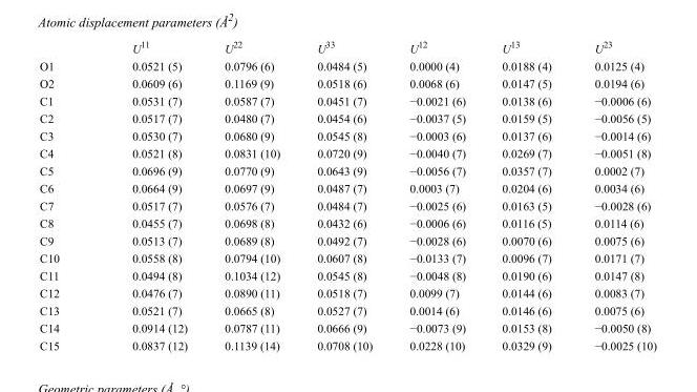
<table><thead><tr><td></td><td>U<sup>11</sup></td><td>U<sup>22</sup></td><td>U<sup>33</sup></td><td>U<sup>12</sup></td><td>U<sup>13</sup></td><td>U<sup>23</sup></td></tr></thead><tbody><tr><td>O1</td><td>0.0521 (5)</td><td>0.0796 (6)</td><td>0.0484 (5)</td><td>0.0000 (4)</td><td>0.0188 (4)</td><td>0.0125 (4)</td></tr><tr><td>O2</td><td>0.0609 (6)</td><td>0.1169 (9)</td><td>0.0518 (6)</td><td>0.0068 (6)</td><td>0.0147 (5)</td><td>0.0194 (6)</td></tr><tr><td>C1</td><td>0.0531 (7)</td><td>0.0587 (7)</td><td>0.0451 (7)</td><td>−0.0021 (6)</td><td>0.0138 (6)</td><td>−0.0006 (6)</td></tr><tr><td>C2</td><td>0.0517 (7)</td><td>0.0480 (7)</td><td>0.0454 (6)</td><td>−0.0037 (5)</td><td>0.0159 (5)</td><td>−0.0056 (5)</td></tr><tr><td>C3</td><td>0.0530 (7)</td><td>0.0680 (9)</td><td>0.0545 (8)</td><td>−0.0003 (6)</td><td>0.0137 (6)</td><td>−0.0014 (6)</td></tr><tr><td>C4</td><td>0.0521 (8)</td><td>0.0831 (10)</td><td>0.0720 (9)</td><td>−0.0040 (7)</td><td>0.0269 (7)</td><td>−0.0051 (8)</td></tr><tr><td>C5</td><td>0.0696 (9)</td><td>0.0770 (9)</td><td>0.0643 (9)</td><td>−0.0056 (7)</td><td>0.0357 (7)</td><td>0.0002 (7)</td></tr><tr><td>C6</td><td>0.0664 (9)</td><td>0.0697 (9)</td><td>0.0487 (7)</td><td>0.0003 (7)</td><td>0.0204 (6)</td><td>0.0034 (6)</td></tr><tr><td>C7</td><td>0.0517 (7)</td><td>0.0576 (7)</td><td>0.0484 (7)</td><td>−0.0025 (6)</td><td>0.0163 (5)</td><td>−0.0028 (6)</td></tr><tr><td>C8</td><td>0.0455 (7)</td><td>0.0698 (8)</td><td>0.0432 (6)</td><td>−0.0006 (6)</td><td>0.0116 (5)</td><td>0.0114 (6)</td></tr><tr><td>C9</td><td>0.0513 (7)</td><td>0.0689 (8)</td><td>0.0492 (7)</td><td>−0.0028 (6)</td><td>0.0070 (6)</td><td>0.0075 (6)</td></tr><tr><td>C10</td><td>0.0558 (8)</td><td>0.0794 (10)</td><td>0.0607 (8)</td><td>−0.0133 (7)</td><td>0.0096 (7)</td><td>0.0171 (7)</td></tr><tr><td>C11</td><td>0.0494 (8)</td><td>0.1034 (12)</td><td>0.0545 (8)</td><td>−0.0048 (8)</td><td>0.0190 (6)</td><td>0.0147 (8)</td></tr><tr><td>C12</td><td>0.0476 (7)</td><td>0.0890 (11)</td><td>0.0518 (7)</td><td>0.0099 (7)</td><td>0.0144 (6)</td><td>0.0083 (7)</td></tr><tr><td>C13</td><td>0.0521 (7)</td><td>0.0665 (8)</td><td>0.0527 (7)</td><td>0.0014 (6)</td><td>0.0146 (6)</td><td>0.0075 (6)</td></tr><tr><td>C14</td><td>0.0914 (12)</td><td>0.0787 (11)</td><td>0.0666 (9)</td><td>−0.0073 (9)</td><td>0.0153 (8)</td><td>−0.0050 (8)</td></tr><tr><td>C15</td><td>0.0837 (12)</td><td>0.1139 (14)</td><td>0.0708 (10)</td><td>0.0228 (10)</td><td>0.0329 (9)</td><td>−0.0025 (10)</td></tr></tbody></table>